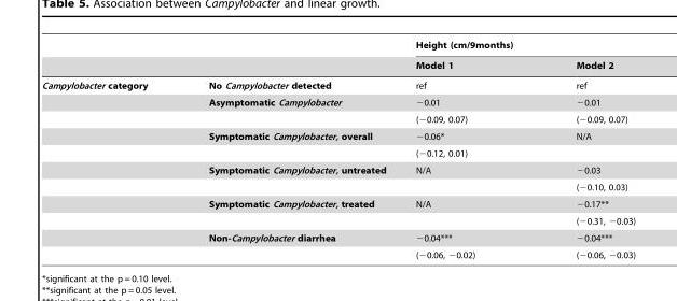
<table><thead><tr><td rowspan="2"></td><td rowspan="2"></td><td colspan="2">Height (cm/9months)</td></tr><tr><td>Model 1</td><td>Model 2</td></tr></thead><tbody><tr><td rowspan="11">Campylobacter category</td><td>No Campylobacter detected</td><td>ref</td><td>ref</td></tr><tr><td>Asymptomatic Campylobacter</td><td>−0.01</td><td>−0.01</td></tr><tr><td></td><td>(−0.09, 0.07)</td><td>(−0.09, 0.07)</td></tr><tr><td>Symptomatic Campylobacter, overall</td><td>−0.06*</td><td>N/A</td></tr><tr><td></td><td>(−0.12, 0.01)</td><td></td></tr><tr><td>Symptomatic Campylobacter, untreated</td><td>N/A</td><td>−0.03</td></tr><tr><td></td><td></td><td>(−0.10, 0.03)</td></tr><tr><td>Symptomatic Campylobacter, treated</td><td>N/A</td><td>−0.17**</td></tr><tr><td></td><td></td><td>(−0.31, −0.03)</td></tr><tr><td>Non-Campylobacter diarrhea</td><td>−0.04***</td><td>−0.04***</td></tr><tr><td></td><td>(−0.06, −0.02)</td><td>(−0.06, −0.03)</td></tr></tbody></table>